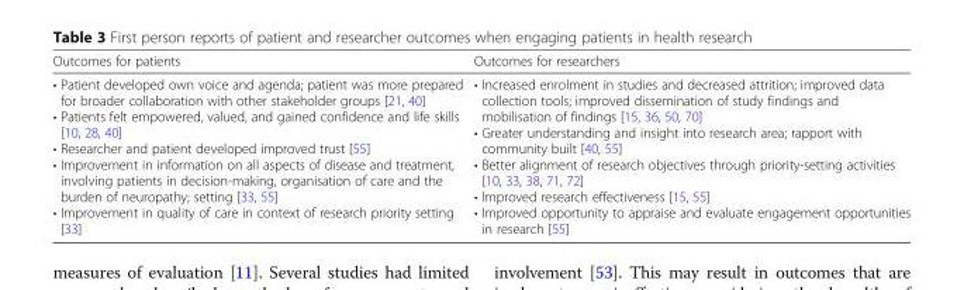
<table><thead><tr><td>Outcomes for patients</td><td>Outcomes for researchers</td></tr></thead><tbody><tr><td>• Patient developed own voice and agenda; patient was more prepared for broader collaboration with other stakeholder groups [21, 40] • Patients felt empowered, valued, and gained confidence and life skills [10, 28, 40] • Researcher and patient developed improved trust [55] • Improvement in information on all aspects of disease and treatment, involving patients in decision-making, organisation of care and the burden of neuropathy; setting [33, 55] • Improvement in quality of care in context of research priority setting [33]</td><td>• Increased enrolment in studies and decreased attrition; improved data collection tools; improved dissemination of study findings and mobilisation of findings [15, 36, 50, 70] • Greater understanding and insight into research area; rapport with community built [40, 55] • Better alignment of research objectives through priority-setting activities [10, 33, 38, 71, 72] • Improved research effectiveness [15, 55] • Improved opportunity to appraise and evaluate engagement opportunities in research [55]</td></tr></tbody></table>